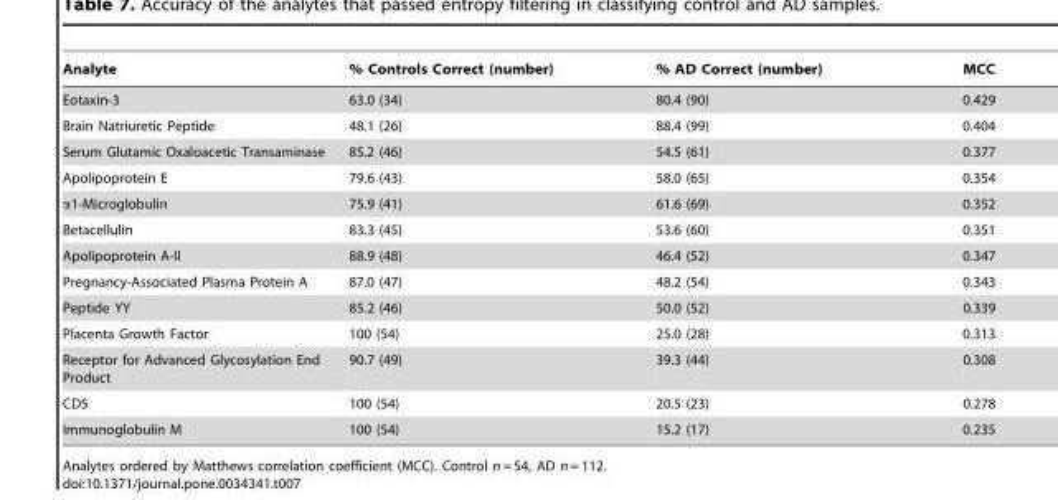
<table><thead><tr><td>Analyte</td><td>% Controls Correct (number)</td><td>% AD Correct (number)</td><td>MCC</td></tr></thead><tbody><tr><td>Eotaxin-3</td><td>63.0 (34)</td><td>80.4 (90)</td><td>0.429</td></tr><tr><td>Brain Natriuretic Peptide</td><td>48.1 (26)</td><td>88.4 (99)</td><td>0.404</td></tr><tr><td>Serum Glutamic Oxaloacetic Transaminase</td><td>85.2 (46)</td><td>54.5 (61)</td><td>0.377</td></tr><tr><td>Apolipoprotein E</td><td>79.6 (43)</td><td>58.0 (65)</td><td>0.354</td></tr><tr><td>α1-Microglobulin</td><td>75.9 (41)</td><td>61.6 (69)</td><td>0.352</td></tr><tr><td>Betacellulin</td><td>83.3 (45)</td><td>53.6 (60)</td><td>0.351</td></tr><tr><td>Apolipoprotein A-II</td><td>88.9 (48)</td><td>46.4 (52)</td><td>0.347</td></tr><tr><td>Pregnancy-Associated Plasma Protein A</td><td>87.0 (47)</td><td>48.2 (54)</td><td>0.343</td></tr><tr><td>Peptide YY</td><td>85.2 (46)</td><td>50.0 (52)</td><td>0.339</td></tr><tr><td>Placenta Growth Factor</td><td>100 (54)</td><td>25.0 (28)</td><td>0.313</td></tr><tr><td>Receptor for Advanced Glycosylation End Product</td><td>90.7 (49)</td><td>39.3 (44)</td><td>0.308</td></tr><tr><td>CD5</td><td>100 (54)</td><td>20.5 (23)</td><td>0.278</td></tr><tr><td>Immunoglobulin M</td><td>100 (54)</td><td>15.2 (17)</td><td>0.235</td></tr></tbody></table>